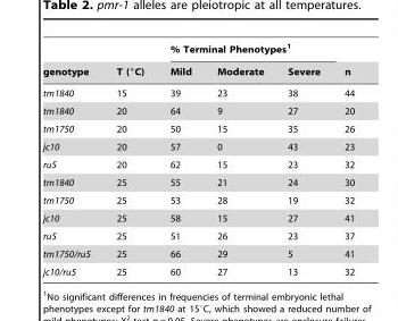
<table><thead><tr><td rowspan="2">genotype</td><td rowspan="2">T (°C)</td><td colspan="3">% Terminal Phenotypes<sup>1</sup></td><td rowspan="2">n</td></tr><tr><td>Mild</td><td>Moderate</td><td>Severe</td></tr></thead><tbody><tr><td>tm1840</td><td>15</td><td>39</td><td>23</td><td>38</td><td>44</td></tr><tr><td>tm1840</td><td>20</td><td>64</td><td>9</td><td>27</td><td>20</td></tr><tr><td>tm1750</td><td>20</td><td>50</td><td>15</td><td>35</td><td>26</td></tr><tr><td>jc10</td><td>20</td><td>57</td><td>0</td><td>43</td><td>23</td></tr><tr><td>ru5</td><td>20</td><td>62</td><td>15</td><td>23</td><td>32</td></tr><tr><td>tm1840</td><td>25</td><td>55</td><td>21</td><td>24</td><td>30</td></tr><tr><td>tm1750</td><td>25</td><td>53</td><td>28</td><td>19</td><td>32</td></tr><tr><td>jc10</td><td>25</td><td>58</td><td>15</td><td>27</td><td>41</td></tr><tr><td>ru5</td><td>25</td><td>51</td><td>26</td><td>23</td><td>37</td></tr><tr><td>tm1750/ru5</td><td>25</td><td>66</td><td>29</td><td>5</td><td>41</td></tr><tr><td>jc10/ru5</td><td>25</td><td>60</td><td>27</td><td>13</td><td>32</td></tr></tbody></table>